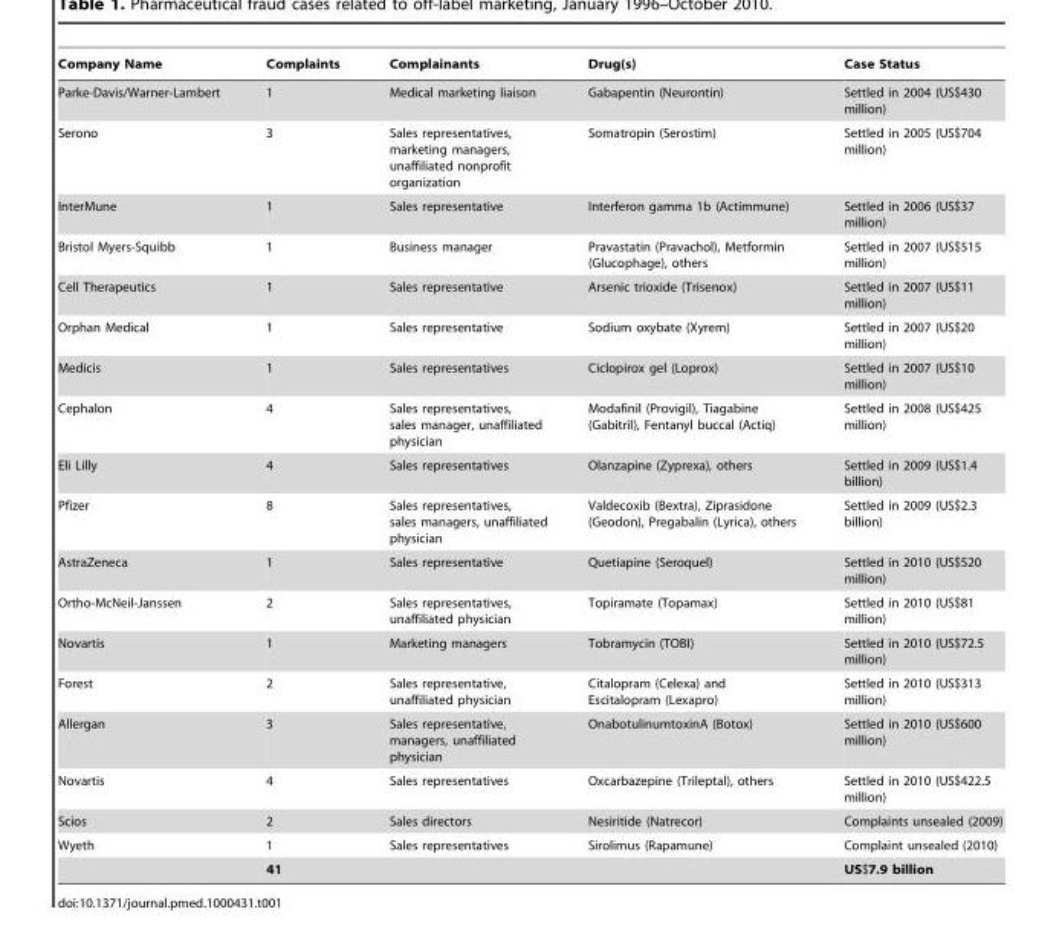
<table><thead><tr><td>Company Name</td><td>Complaints</td><td>Complainants</td><td>Drug(s)</td><td>Case Status</td></tr></thead><tbody><tr><td>Parke-Davis/Warner-Lambert</td><td>1</td><td>Medical marketing liaison</td><td>Gabapentin (Neurontin)</td><td>Settled in 2004 (US$430 million)</td></tr><tr><td>Serono</td><td>3</td><td>Sales representatives, marketing managers, unaffiliated nonprofit organization</td><td>Somatropin (Serostim)</td><td>Settled in 2005 (US$704 million)</td></tr><tr><td>InterMune</td><td>1</td><td>Sales representative</td><td>Interferon gamma 1b (Actimmune)</td><td>Settled in 2006 (US$37 million)</td></tr><tr><td>Bristol Myers-Squibb</td><td>1</td><td>Business manager</td><td>Pravastatin (Pravachol), Metformin (Glucophage), others</td><td>Settled in 2007 (US$515 million)</td></tr><tr><td>Cell Therapeutics</td><td>1</td><td>Sales representative</td><td>Arsenic trioxide (Trisenox)</td><td>Settled in 2007 (US$11 million)</td></tr><tr><td>Orphan Medical</td><td>1</td><td>Sales representative</td><td>Sodium oxybate (Xyrem)</td><td>Settled in 2007 (US$20 million)</td></tr><tr><td>Medicis</td><td>1</td><td>Sales representatives</td><td>Ciclopirox gel (Loprox)</td><td>Settled in 2007 (US$10 million)</td></tr><tr><td>Cephalon</td><td>4</td><td>Sales representatives, sales manager, unaffiliated physician</td><td>Modafinil (Provigil), Tiagabine (Gabitril), Fentanyl buccal (Actiq)</td><td>Settled in 2008 (US$425 million)</td></tr><tr><td>Eli Lilly</td><td>4</td><td>Sales representatives</td><td>Olanzapine (Zyprexa), others</td><td>Settled in 2009 (US$1.4 billion)</td></tr><tr><td>Pfizer</td><td>8</td><td>Sales representatives, sales managers, unaffiliated physician</td><td>Valdecoxib (Bextra), Ziprasidone (Geodon), Pregabalin (Lyrica), others</td><td>Settled in 2009 (US$2.3 billion)</td></tr><tr><td>AstraZeneca</td><td>1</td><td>Sales representative</td><td>Quetiapine (Seroquel)</td><td>Settled in 2010 (US$520 million)</td></tr><tr><td>Ortho-McNeil-Janssen</td><td>2</td><td>Sales representatives, unaffiliated physician</td><td>Topiramate (Topamax)</td><td>Settled in 2010 (US$81 million)</td></tr><tr><td>Novartis</td><td>1</td><td>Marketing managers</td><td>Tobramycin (TOBI)</td><td>Settled in 2010 (US$72.5 million)</td></tr><tr><td>Forest</td><td>2</td><td>Sales representative, unaffiliated physician</td><td>Citalopram (Celexa) and Escitalopram (Lexapro)</td><td>Settled in 2010 (US$313 million)</td></tr><tr><td>Allergan</td><td>3</td><td>Sales representative, managers, unaffiliated physician</td><td>OnabotulinumtoxinA (Botox)</td><td>Settled in 2010 (US$600 million)</td></tr><tr><td>Novartis</td><td>4</td><td>Sales representatives</td><td>Oxcarbazepine (Trileptal), others</td><td>Settled in 2010 (US$422.5 million)</td></tr><tr><td>Scios</td><td>2</td><td>Sales directors</td><td>Nesiritide (Natrecor)</td><td>Complaints unsealed (2009)</td></tr><tr><td rowspan="2">Wyeth</td><td>1</td><td>Sales representatives</td><td>Sirolimus (Rapamune)</td><td>Complaint unsealed (2010)</td></tr><tr><td>41</td><td></td><td></td><td>US$7.9 billion</td></tr></tbody></table>